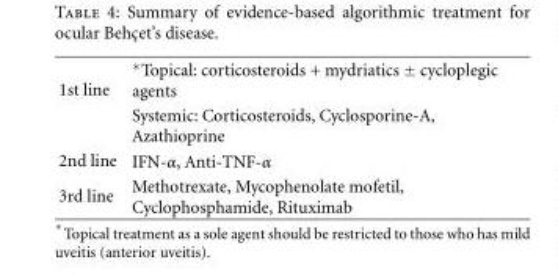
<table><tbody><tr><td rowspan="2">1st line</td><td>∗Topical: corticosteroids + mydriatics ± cycloplegic agents</td></tr><tr><td>Systemic: Corticosteroids, Cyclosporine-A, Azathioprine</td></tr><tr><td>2nd line</td><td>IFN-α, Anti-TNF-α</td></tr><tr><td>3rd line</td><td>Methotrexate, Mycophenolate mofetil, Cyclophosphamide, Rituximab</td></tr></tbody></table>